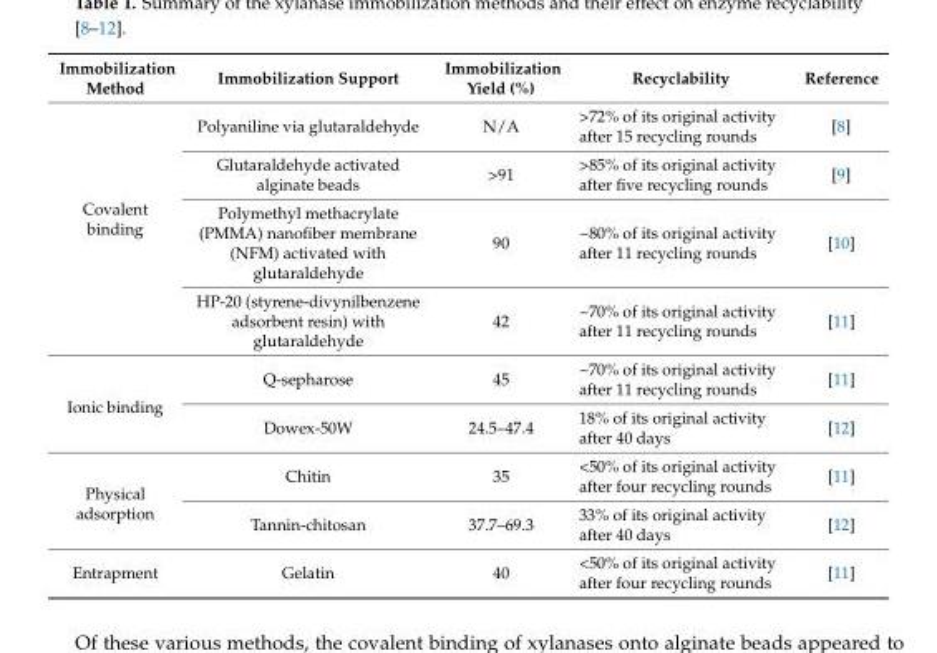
<table><thead><tr><td>Immobilization Method</td><td>Immobilization Support</td><td>Immobilization Yield (%)</td><td>Recyclability</td><td>Reference</td></tr></thead><tbody><tr><td rowspan="4">Covalent binding</td><td>Polyaniline via glutaraldehyde</td><td>N/A</td><td>&gt;72% of its original activity after 15 recycling rounds</td><td>[8]</td></tr><tr><td>Glutaraldehyde activated alginate beads</td><td>&gt;91</td><td>&gt;85% of its original activity after five recycling rounds</td><td>[9]</td></tr><tr><td>Polymethyl methacrylate (PMMA) nanofiber membrane (NFM) activated with glutaraldehyde</td><td>90</td><td>~80% of its original activity after 11 recycling rounds</td><td>[10]</td></tr><tr><td>HP-20 (styrene-divynilbenzene adsorbent resin) with glutaraldehyde</td><td>42</td><td>~70% of its original activity after 11 recycling rounds</td><td>[11]</td></tr><tr><td rowspan="2">Ionic binding</td><td>Q-sepharose</td><td>45</td><td>~70% of its original activity after 11 recycling rounds</td><td>[11]</td></tr><tr><td>Dowex-50W</td><td>24.5–47.4</td><td>18% of its original activity after 40 days</td><td>[12]</td></tr><tr><td rowspan="2">Physical adsorption</td><td>Chitin</td><td>35</td><td>&lt;50% of its original activity after four recycling rounds</td><td>[11]</td></tr><tr><td>Tannin-chitosan</td><td>37.7–69.3</td><td>33% of its original activity after 40 days</td><td>[12]</td></tr><tr><td>Entrapment</td><td>Gelatin</td><td>40</td><td>&lt;50% of its original activity after four recycling rounds</td><td>[11]</td></tr></tbody></table>